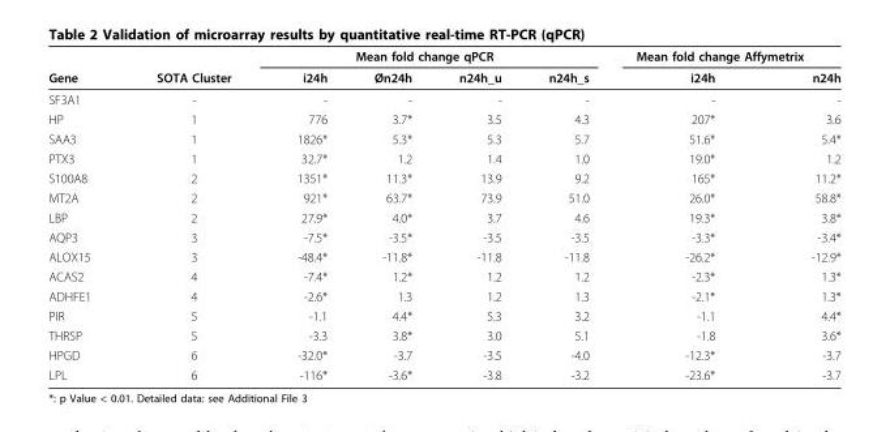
<table><thead><tr><td rowspan="2">Gene</td><td rowspan="2">SOTA Cluster</td><td colspan="4">Mean fold change qPCR</td><td colspan="2">Mean fold change Affymetrix</td></tr><tr><td>i24h</td><td>Øn24h</td><td>n24h_u</td><td>n24h_s</td><td>i24h</td><td>n24h</td></tr></thead><tbody><tr><td>SF3A1</td><td>-</td><td>-</td><td>-</td><td>-</td><td>-</td><td>-</td><td>-</td></tr><tr><td>HP</td><td>1</td><td>776</td><td>3.7*</td><td>3.5</td><td>4.3</td><td>207*</td><td>3.6</td></tr><tr><td>SAA3</td><td>1</td><td>1826*</td><td>5.3*</td><td>5.3</td><td>5.7</td><td>51.6*</td><td>5.4*</td></tr><tr><td>PTX3</td><td>1</td><td>32.7*</td><td>1.2</td><td>1.4</td><td>1.0</td><td>19.0*</td><td>1.2</td></tr><tr><td>S100A8</td><td>2</td><td>1351*</td><td>11.3*</td><td>13.9</td><td>9.2</td><td>165*</td><td>11.2*</td></tr><tr><td>MT2A</td><td>2</td><td>921*</td><td>63.7*</td><td>73.9</td><td>51.0</td><td>26.0*</td><td>58.8*</td></tr><tr><td>LBP</td><td>2</td><td>27.9*</td><td>4.0*</td><td>3.7</td><td>4.6</td><td>19.3*</td><td>3.8*</td></tr><tr><td>AQP3</td><td>3</td><td>-7.5*</td><td>-3.5*</td><td>-3.5</td><td>-3.5</td><td>-3.3*</td><td>-3.4*</td></tr><tr><td>ALOX15</td><td>3</td><td>-48.4*</td><td>-11.8*</td><td>-11.8</td><td>-11.8</td><td>-26.2*</td><td>-12.9*</td></tr><tr><td>ACAS2</td><td>4</td><td>-7.4*</td><td>1.2*</td><td>1.2</td><td>1.2</td><td>-2.3*</td><td>1.3*</td></tr><tr><td>ADHFE1</td><td>4</td><td>-2.6*</td><td>1.3</td><td>1.2</td><td>1.3</td><td>-2.1*</td><td>1.3*</td></tr><tr><td>PIR</td><td>5</td><td>-1.1</td><td>4.4*</td><td>5.3</td><td>3.2</td><td>-1.1</td><td>4.4*</td></tr><tr><td>THRSP</td><td>5</td><td>-3.3</td><td>3.8*</td><td>3.0</td><td>5.1</td><td>-1.8</td><td>3.6*</td></tr><tr><td>HPGD</td><td>6</td><td>-32.0*</td><td>-3.7</td><td>-3.5</td><td>-4.0</td><td>-12.3*</td><td>-3.7</td></tr><tr><td>LPL</td><td>6</td><td>-116*</td><td>-3.6*</td><td>-3.8</td><td>-3.2</td><td>-23.6*</td><td>-3.7</td></tr></tbody></table>